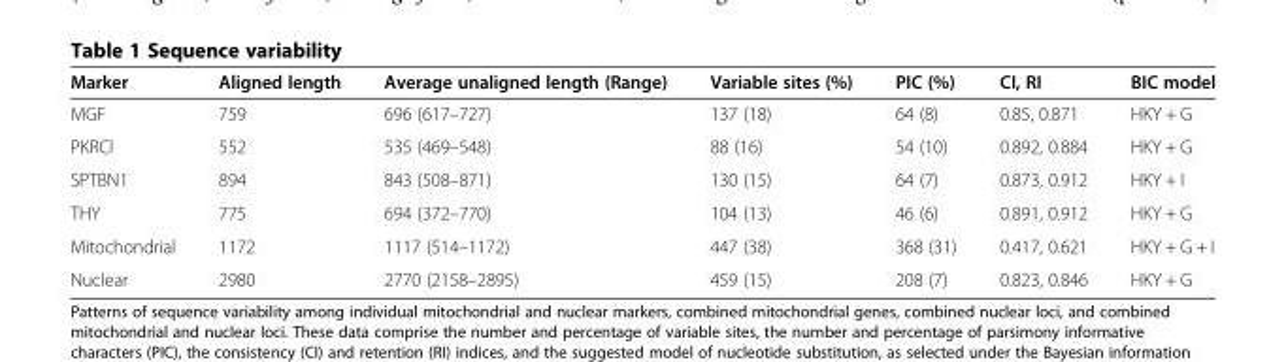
<table><thead><tr><td>Marker</td><td>Aligned length</td><td>Average unaligned length (Range)</td><td>Variable sites (%)</td><td>PIC (%)</td><td>CI, RI</td><td>BIC model</td></tr></thead><tbody><tr><td>MGF</td><td>759</td><td>696 (617–727)</td><td>137 (18)</td><td>64 (8)</td><td>0.85, 0.871</td><td>HKY + G</td></tr><tr><td>PKRCl</td><td>552</td><td>535 (469–548)</td><td>88 (16)</td><td>54 (10)</td><td>0.892, 0.884</td><td>HKY + G</td></tr><tr><td>SPTBN1</td><td>894</td><td>843 (508–871)</td><td>130 (15)</td><td>64 (7)</td><td>0.873, 0.912</td><td>HKY + I</td></tr><tr><td>THY</td><td>775</td><td>694 (372–770)</td><td>104 (13)</td><td>46 (6)</td><td>0.891, 0.912</td><td>HKY + G</td></tr><tr><td>Mitochondrial</td><td>1172</td><td>1117 (514–1172)</td><td>447 (38)</td><td>368 (31)</td><td>0.417, 0.621</td><td>HKY + G + I</td></tr><tr><td>Nuclear</td><td>2980</td><td>2770 (2158–2895)</td><td>459 (15)</td><td>208 (7)</td><td>0.823, 0.846</td><td>HKY + G</td></tr></tbody></table>